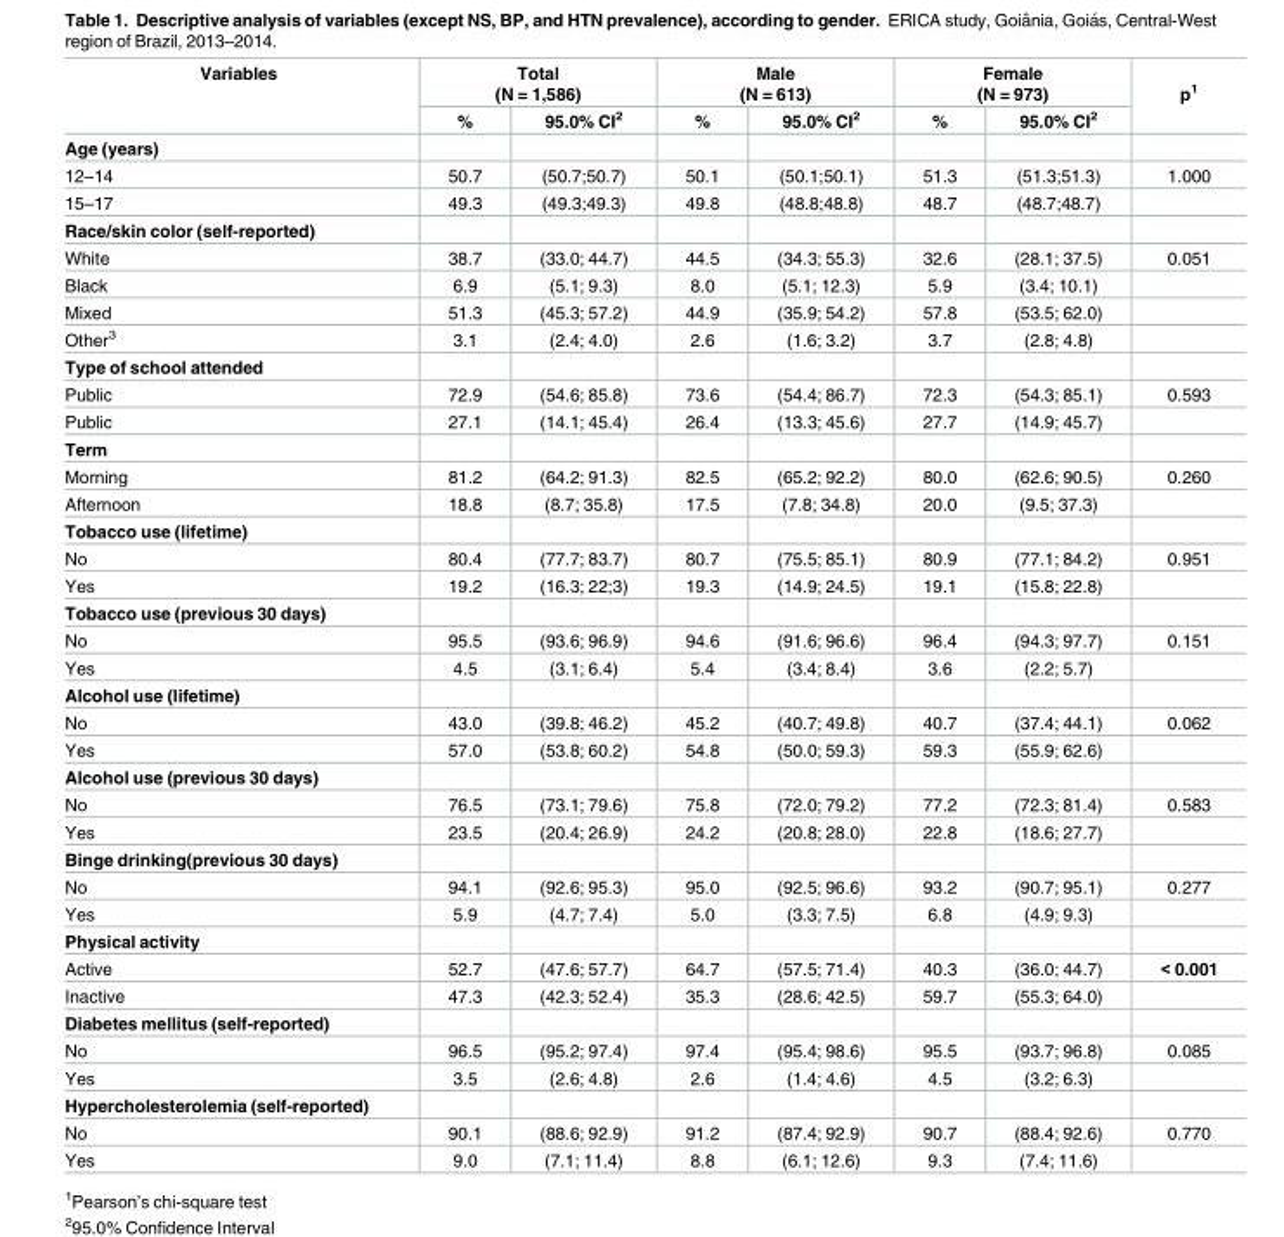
<table><thead><tr><td rowspan="2">Variables</td><td colspan="2">Total (N = 1,586)</td><td colspan="2">Male (N = 613)</td><td colspan="2">Female (N = 973)</td><td rowspan="2">p<sup>1</sup></td></tr><tr><td>%</td><td>95.0% CI<sup>2</sup></td><td>%</td><td>95.0% CI<sup>2</sup></td><td>%</td><td>95.0% CI<sup>2</sup></td></tr></thead><tbody><tr><td colspan="8">Age (years)</td></tr><tr><td>12–14</td><td>50.7</td><td>(50.7;50.7)</td><td>50.1</td><td>(50.1;50.1)</td><td>51.3</td><td>(51.3;51.3)</td><td>1.000</td></tr><tr><td>15–17</td><td>49.3</td><td>(49.3;49.3)</td><td>49.8</td><td>(48.8;48.8)</td><td>48.7</td><td>(48.7;48.7)</td><td></td></tr><tr><td colspan="8">Race/skin color (self-reported)</td></tr><tr><td>White</td><td>38.7</td><td>(33.0; 44.7)</td><td>44.5</td><td>(34.3; 55.3)</td><td>32.6</td><td>(28.1; 37.5)</td><td>0.051</td></tr><tr><td>Black</td><td>6.9</td><td>(5.1; 9.3)</td><td>8.0</td><td>(5.1; 12.3)</td><td>5.9</td><td>(3.4; 10.1)</td><td></td></tr><tr><td>Mixed</td><td>51.3</td><td>(45.3; 57.2)</td><td>44.9</td><td>(35.9; 54.2)</td><td>57.8</td><td>(53.5; 62.0)</td><td></td></tr><tr><td>Other<sup>3</sup></td><td>3.1</td><td>(2.4; 4.0)</td><td>2.6</td><td>(1.6; 3.2)</td><td>3.7</td><td>(2.8; 4.8)</td><td></td></tr><tr><td colspan="8">Type of school attended</td></tr><tr><td>Public</td><td>72.9</td><td>(54.6; 85.8)</td><td>73.6</td><td>(54.4; 86.7)</td><td>72.3</td><td>(54.3; 85.1)</td><td>0.593</td></tr><tr><td>Public</td><td>27.1</td><td>(14.1; 45.4)</td><td>26.4</td><td>(13.3; 45.6)</td><td>27.7</td><td>(14.9; 45.7)</td><td></td></tr><tr><td colspan="8">Term</td></tr><tr><td>Morning</td><td>81.2</td><td>(64.2; 91.3)</td><td>82.5</td><td>(65.2; 92.2)</td><td>80.0</td><td>(62.6; 90.5)</td><td>0.260</td></tr><tr><td>Afternoon</td><td>18.8</td><td>(8.7; 35.8)</td><td>17.5</td><td>(7.8; 34.8)</td><td>20.0</td><td>(9.5; 37.3)</td><td></td></tr><tr><td colspan="8">Tobacco use (lifetime)</td></tr><tr><td>No</td><td>80.4</td><td>(77.7; 83.7)</td><td>80.7</td><td>(75.5; 85.1)</td><td>80.9</td><td>(77.1; 84.2)</td><td>0.951</td></tr><tr><td>Yes</td><td>19.2</td><td>(16.3; 22;3)</td><td>19.3</td><td>(14.9; 24.5)</td><td>19.1</td><td>(15.8; 22.8)</td><td></td></tr><tr><td colspan="8">Tobacco use (previous 30 days)</td></tr><tr><td>No</td><td>95.5</td><td>(93.6; 96.9)</td><td>94.6</td><td>(91.6; 96.6)</td><td>96.4</td><td>(94.3; 97.7)</td><td>0.151</td></tr><tr><td>Yes</td><td>4.5</td><td>(3.1; 6.4)</td><td>5.4</td><td>(3.4; 8.4)</td><td>3.6</td><td>(2.2; 5.7)</td><td></td></tr><tr><td colspan="8">Alcohol use (lifetime)</td></tr><tr><td>No</td><td>43.0</td><td>(39.8; 46.2)</td><td>45.2</td><td>(40.7; 49.8)</td><td>40.7</td><td>(37.4; 44.1)</td><td>0.062</td></tr><tr><td>Yes</td><td>57.0</td><td>(53.8; 60.2)</td><td>54.8</td><td>(50.0; 59.3)</td><td>59.3</td><td>(55.9; 62.6)</td><td></td></tr><tr><td colspan="8">Alcohol use (previous 30 days)</td></tr><tr><td>No</td><td>76.5</td><td>(73.1; 79.6)</td><td>75.8</td><td>(72.0; 79.2)</td><td>77.2</td><td>(72.3; 81.4)</td><td>0.583</td></tr><tr><td>Yes</td><td>23.5</td><td>(20.4; 26.9)</td><td>24.2</td><td>(20.8; 28.0)</td><td>22.8</td><td>(18.6; 27.7)</td><td></td></tr><tr><td colspan="8">Binge drinking(previous 30 days)</td></tr><tr><td>No</td><td>94.1</td><td>(92.6; 95.3)</td><td>95.0</td><td>(92.5; 96.6)</td><td>93.2</td><td>(90.7; 95.1)</td><td>0.277</td></tr><tr><td>Yes</td><td>5.9</td><td>(4.7; 7.4)</td><td>5.0</td><td>(3.3; 7.5)</td><td>6.8</td><td>(4.9; 9.3)</td><td></td></tr><tr><td colspan="8">Physical activity</td></tr><tr><td>Active</td><td>52.7</td><td>(47.6; 57.7)</td><td>64.7</td><td>(57.5; 71.4)</td><td>40.3</td><td>(36.0; 44.7)</td><td>&lt; 0.001</td></tr><tr><td>Inactive</td><td>47.3</td><td>(42.3; 52.4)</td><td>35.3</td><td>(28.6; 42.5)</td><td>59.7</td><td>(55.3; 64.0)</td><td></td></tr><tr><td colspan="8">Diabetes mellitus (self-reported)</td></tr><tr><td>No</td><td>96.5</td><td>(95.2; 97.4)</td><td>97.4</td><td>(95.4; 98.6)</td><td>95.5</td><td>(93.7; 96.8)</td><td>0.085</td></tr><tr><td>Yes</td><td>3.5</td><td>(2.6; 4.8)</td><td>2.6</td><td>(1.4; 4.6)</td><td>4.5</td><td>(3.2; 6.3)</td><td></td></tr><tr><td colspan="8">Hypercholesterolemia (self-reported)</td></tr><tr><td>No</td><td>90.1</td><td>(88.6; 92.9)</td><td>91.2</td><td>(87.4; 92.9)</td><td>90.7</td><td>(88.4; 92.6)</td><td>0.770</td></tr><tr><td>Yes</td><td>9.0</td><td>(7.1; 11.4)</td><td>8.8</td><td>(6.1; 12.6)</td><td>9.3</td><td>(7.4; 11.6)</td><td></td></tr></tbody></table>